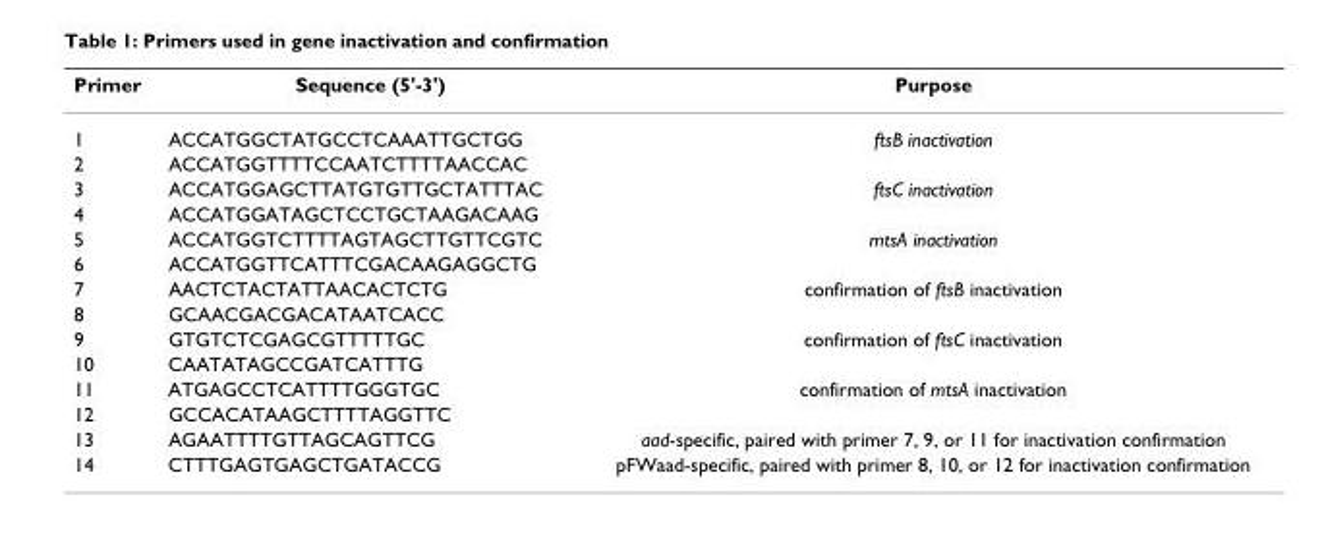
<table><thead><tr><td>Primer</td><td>Sequence (5&#x27;-3&#x27;)</td><td>Purpose</td></tr></thead><tbody><tr><td>1</td><td>ACCATGGCTATGCCTCAAATTGCTGG</td><td>ftsB inactivation</td></tr><tr><td>2</td><td>ACCATGGTTTTCCAATCTTTTAACCAC</td><td></td></tr><tr><td>3</td><td>ACCATGGAGCTTATGTGTTGCTATTTAC</td><td>ftsC inactivation</td></tr><tr><td>4</td><td>ACCATGGATAGCTCCTGCTAAGACAAG</td><td></td></tr><tr><td>5</td><td>ACCATGGTCTTTTAGTAGCTTGTTCGTC</td><td>mtsA inactivation</td></tr><tr><td>6</td><td>ACCATGGTTCATTTCGACAAGAGGCTG</td><td></td></tr><tr><td>7</td><td>AACTCTACTATTAACACTCTG</td><td>confirmation of ftsB inactivation</td></tr><tr><td>8</td><td>GCAACGACGACATAATCACC</td><td></td></tr><tr><td>9</td><td>GTGTCTCGAGCGTTTTTGC</td><td>confirmation of ftsC inactivation</td></tr><tr><td>10</td><td>CAATATAGCCGATCATTTG</td><td></td></tr><tr><td>11</td><td>ATGAGCCTCATTTTGGGTGC</td><td>confirmation of mtsA inactivation</td></tr><tr><td>12</td><td>GCCACATAAGCTTTTAGGTTC</td><td></td></tr><tr><td>13</td><td>AGAATTTTGTTAGCAGTTCG</td><td>aad-specific, paired with primer 7, 9, or 11 for inactivation confirmation</td></tr><tr><td>14</td><td>CTTTGAGTGAGCTGATACCG</td><td>pFWaad-specific, paired with primer 8, 10, or 12 for inactivation confirmation</td></tr></tbody></table>